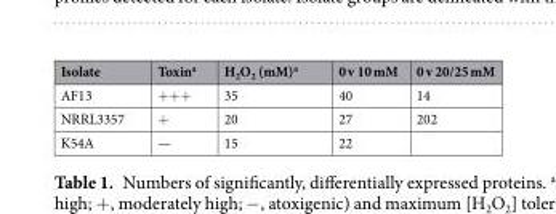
<table><thead><tr><td>Isolate</td><td>Toxin<sup>a</sup></td><td>H<sub>2</sub>O<sub>2</sub> (mM)<sup>a</sup></td><td>0 v 10 mM</td><td>0 v 20/25 mM</td></tr></thead><tbody><tr><td>AF13</td><td>+++</td><td>35</td><td>40</td><td>14</td></tr><tr><td>NRRL3357</td><td>+</td><td>20</td><td>27</td><td>202</td></tr><tr><td>K54A</td><td>—</td><td>15</td><td>22</td><td></td></tr></tbody></table>